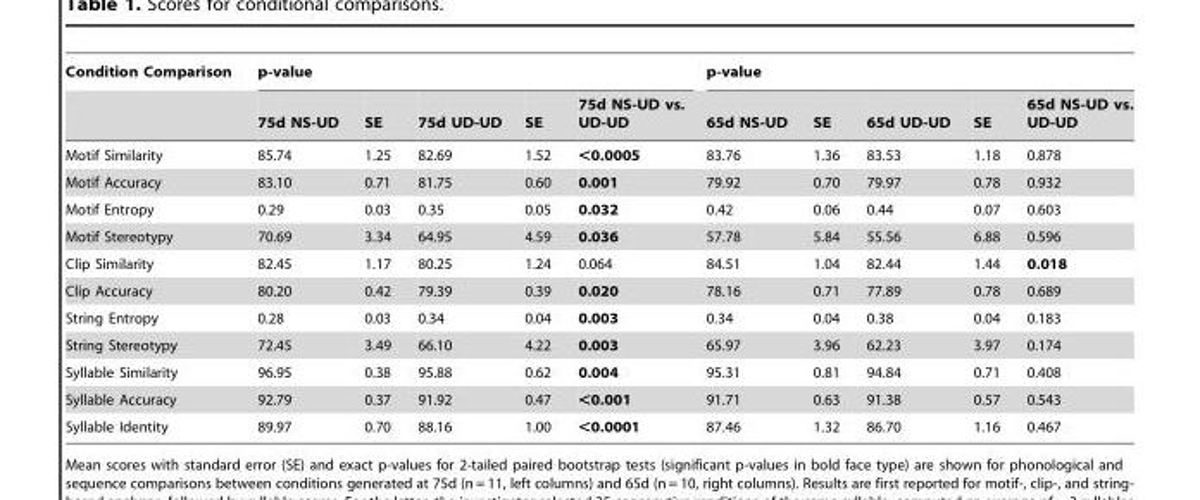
<table><thead><tr><td rowspan="2">Condition Comparison</td><td colspan="5">p-value</td><td colspan="5">p-value</td></tr><tr><td>75d NS-UD</td><td>SE</td><td>75d UD-UD</td><td>SE</td><td>75d NS-UD vs. UD-UD</td><td>65d NS-UD</td><td>SE</td><td>65d UD-UD</td><td>SE</td><td>65d NS-UD vs. UD-UD</td></tr></thead><tbody><tr><td>Motif Similarity</td><td>85.74</td><td>1.25</td><td>82.69</td><td>1.52</td><td>&lt;0.0005</td><td>83.76</td><td>1.36</td><td>83.53</td><td>1.18</td><td>0.878</td></tr><tr><td>Motif Accuracy</td><td>83.10</td><td>0.71</td><td>81.75</td><td>0.60</td><td>0.001</td><td>79.92</td><td>0.70</td><td>79.97</td><td>0.78</td><td>0.932</td></tr><tr><td>Motif Entropy</td><td>0.29</td><td>0.03</td><td>0.35</td><td>0.05</td><td>0.032</td><td>0.42</td><td>0.06</td><td>0.44</td><td>0.07</td><td>0.603</td></tr><tr><td>Motif Stereotypy</td><td>70.69</td><td>3.34</td><td>64.95</td><td>4.59</td><td>0.036</td><td>57.78</td><td>5.84</td><td>55.56</td><td>6.88</td><td>0.596</td></tr><tr><td>Clip Similarity</td><td>82.45</td><td>1.17</td><td>80.25</td><td>1.24</td><td>0.064</td><td>84.51</td><td>1.04</td><td>82.44</td><td>1.44</td><td>0.018</td></tr><tr><td>Clip Accuracy</td><td>80.20</td><td>0.42</td><td>79.39</td><td>0.39</td><td>0.020</td><td>78.16</td><td>0.71</td><td>77.89</td><td>0.78</td><td>0.689</td></tr><tr><td>String Entropy</td><td>0.28</td><td>0.03</td><td>0.34</td><td>0.04</td><td>0.003</td><td>0.34</td><td>0.04</td><td>0.38</td><td>0.04</td><td>0.183</td></tr><tr><td>String Stereotypy</td><td>72.45</td><td>3.49</td><td>66.10</td><td>4.22</td><td>0.003</td><td>65.97</td><td>3.96</td><td>62.23</td><td>3.97</td><td>0.174</td></tr><tr><td>Syllable Similarity</td><td>96.95</td><td>0.38</td><td>95.88</td><td>0.62</td><td>0.004</td><td>95.31</td><td>0.81</td><td>94.84</td><td>0.71</td><td>0.408</td></tr><tr><td>Syllable Accuracy</td><td>92.79</td><td>0.37</td><td>91.92</td><td>0.47</td><td>&lt;0.001</td><td>91.71</td><td>0.63</td><td>91.38</td><td>0.57</td><td>0.543</td></tr><tr><td>Syllable Identity</td><td>89.97</td><td>0.70</td><td>88.16</td><td>1.00</td><td>&lt;0.0001</td><td>87.46</td><td>1.32</td><td>86.70</td><td>1.16</td><td>0.467</td></tr></tbody></table>